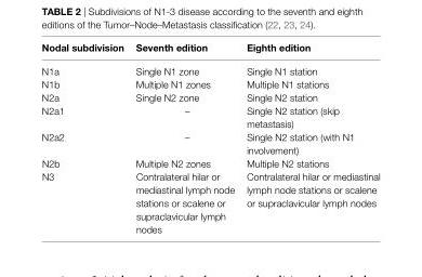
<table><thead><tr><td>nodal subdivision</td><td>Seventh edition</td><td>eighth edition</td></tr></thead><tbody><tr><td>N1a</td><td>Single N1 zone</td><td>Single N1 station</td></tr><tr><td>N1b</td><td>Multiple N1 zones</td><td>Multiple N1 stations</td></tr><tr><td>N2a</td><td>Single N2 zone</td><td>Single N2 station</td></tr><tr><td>N2a1</td><td>–</td><td>Single N2 station (skip metastasis)</td></tr><tr><td>N2a2</td><td>–</td><td>Single N2 station (with N1 involvement)</td></tr><tr><td>N2b</td><td>Multiple N2 zones</td><td>Multiple N2 stations</td></tr><tr><td>N3</td><td>Contralateral hilar or mediastinal lymph node stations or scalene or supraclavicular lymph nodes</td><td>Contralateral hilar or mediastinal lymph node stations or scalene or supraclavicular lymph nodes</td></tr></tbody></table>